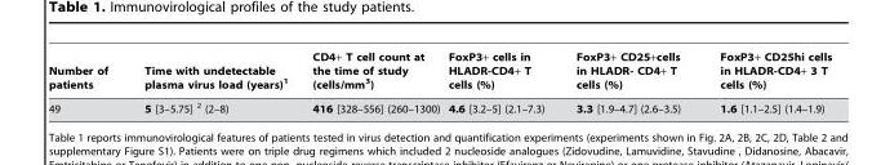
<table><thead><tr><td>Number of patients</td><td>Time with undetectable plasma virus load (years)<sup>1</sup></td><td>CD4+ T cell count at the time of study (cells/mm<sup>3</sup>)</td><td>FoxP3+ cells in HLADR-CD4+ T cells (%)</td><td>FoxP3+ CD25+cells in HLADR- CD4+ T cells (%)</td><td>FoxP3+ CD25hi cells in HLADR-CD4+ 3 T cells (%)</td></tr></thead><tbody><tr><td>49</td><td>5 [3–5.75] 2 (2–8)</td><td>416 [328–556] (260–1300)</td><td>4.6 [3.2–5] (2.1–7.3)</td><td>3.3 [1.9–4.7] (2.6–3.5)</td><td>1.6 [1.1–2.5] (1.4–1.9)</td></tr></tbody></table>